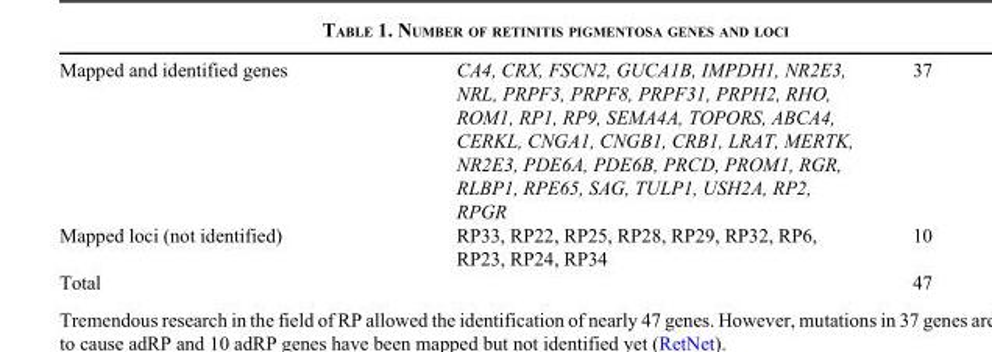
<table><tbody><tr><td>Mapped and identified genes</td><td>CA4, CRX, FSCN2, GUCA1B, IMPDH1, NR2E3, NRL, PRPF3, PRPF8, PRPF31, PRPH2, RHO, ROM1, RP1, RP9, SEMA4A, TOPORS, ABCA4, CERKL, CNGA1, CNGB1, CRB1, LRAT, MERTK, NR2E3, PDE6A, PDE6B, PRCD, PROM1, RGR, RLBP1, RPE65, SAG, TULP1, USH2A, RP2, RPGR</td><td>37</td></tr><tr><td>Mapped loci (not identified)</td><td>RP33, RP22, RP25, RP28, RP29, RP32, RP6, RP23, RP24, RP34</td><td>10</td></tr><tr><td>Total</td><td></td><td>47</td></tr></tbody></table>